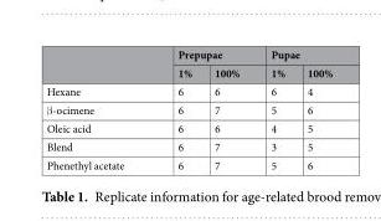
<table><thead><tr><td rowspan="2"></td><td colspan="2">Prepupae</td><td colspan="2">Pupae</td></tr><tr><td>1%</td><td>100%</td><td>1%</td><td>100%</td></tr></thead><tbody><tr><td>Hexane</td><td>6</td><td>6</td><td>6</td><td>4</td></tr><tr><td>β-ocimene</td><td>6</td><td>7</td><td>5</td><td>6</td></tr><tr><td>Oleic acid</td><td>6</td><td>6</td><td>4</td><td>5</td></tr><tr><td>Blend</td><td>6</td><td>7</td><td>3</td><td>5</td></tr><tr><td>Phenethyl acetate</td><td>6</td><td>7</td><td>5</td><td>6</td></tr></tbody></table>